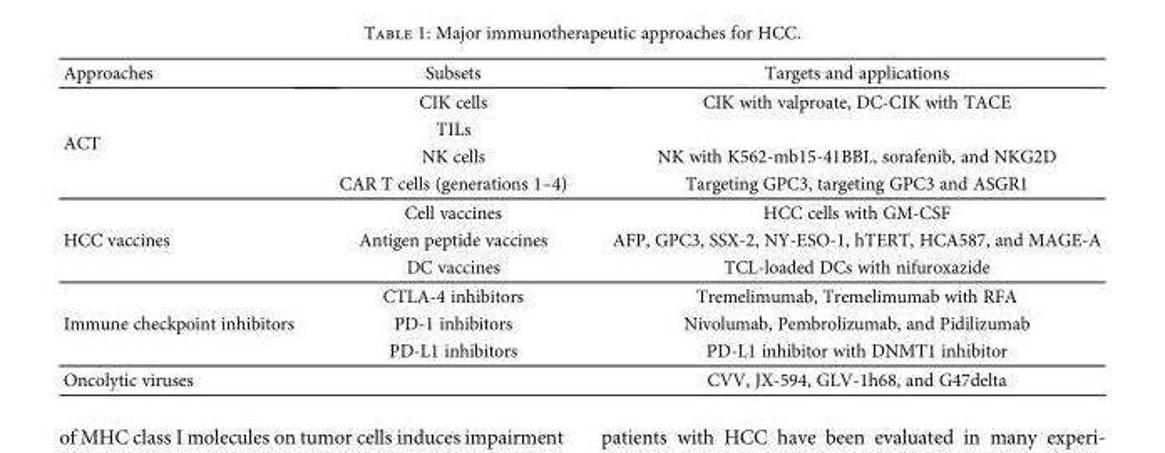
<table><thead><tr><td>Approaches</td><td>Subsets</td><td>Targets and applications</td></tr></thead><tbody><tr><td rowspan="4">ACT</td><td>CIK cells</td><td>CIK with valproate, DC-CIK with TACE</td></tr><tr><td>TILs</td><td></td></tr><tr><td>NK cells</td><td>NK with K562-mb15-41BBL, sorafenib, and NKG2D</td></tr><tr><td>CAR T cells (generations 1–4)</td><td>Targeting GPC3, targeting GPC3 and ASGR1</td></tr><tr><td rowspan="3">HCC vaccines</td><td>Cell vaccines</td><td>HCC cells with GM-CSF</td></tr><tr><td>Antigen peptide vaccines</td><td>AFP, GPC3, SSX-2, NY-ESO-1, hTERT, HCA587, and MAGE-A</td></tr><tr><td>DC vaccines</td><td>TCL-loaded DCs with nifuroxazide</td></tr><tr><td rowspan="3">Immune checkpoint inhibitors</td><td>CTLA-4 inhibitors</td><td>Tremelimumab, Tremelimumab with RFA</td></tr><tr><td>PD-1 inhibitors</td><td>Nivolumab, Pembrolizumab, and Pidilizumab</td></tr><tr><td>PD-L1 inhibitors</td><td>PD-L1 inhibitor with DNMT1 inhibitor</td></tr><tr><td>Oncolytic viruses</td><td></td><td>CVV, JX-594, GLV-1h68, and G47delta</td></tr></tbody></table>